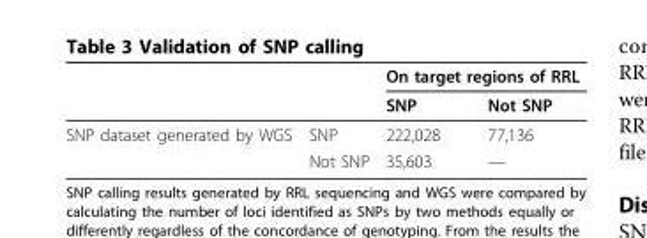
<table><thead><tr><td rowspan="2"></td><td rowspan="2"></td><td colspan="2">On target regions of RRL</td></tr><tr><td>SNP</td><td>Not SNP</td></tr></thead><tbody><tr><td rowspan="2">SNP dataset generated by WGS</td><td>SNP</td><td>222,028</td><td>77,136</td></tr><tr><td>Not SNP</td><td>35,603</td><td>—</td></tr></tbody></table>